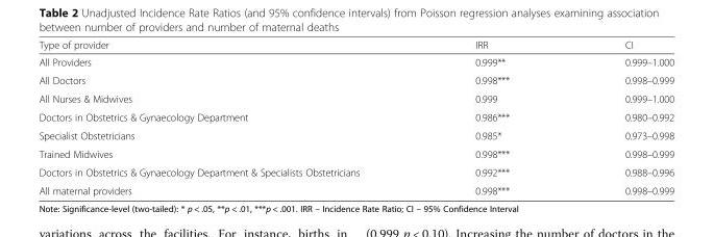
<table><thead><tr><td>Type of provider</td><td>IRR</td><td>CI</td></tr></thead><tbody><tr><td>All Providers</td><td>0.999**</td><td>0.999–1.000</td></tr><tr><td>All Doctors</td><td>0.998***</td><td>0.998–0.999</td></tr><tr><td>All Nurses &amp; Midwives</td><td>0.999</td><td>0.999–1.000</td></tr><tr><td>Doctors in Obstetrics &amp; Gynaecology Department</td><td>0.986***</td><td>0.980–0.992</td></tr><tr><td>Specialist Obstetricians</td><td>0.985*</td><td>0.973–0.998</td></tr><tr><td>Trained Midwives</td><td>0.998***</td><td>0.998–0.999</td></tr><tr><td>Doctors in Obstetrics &amp; Gynaecology Department &amp; Specialists Obstetricians</td><td>0.992***</td><td>0.988–0.996</td></tr><tr><td>All maternal providers</td><td>0.998***</td><td>0.998–0.999</td></tr></tbody></table>